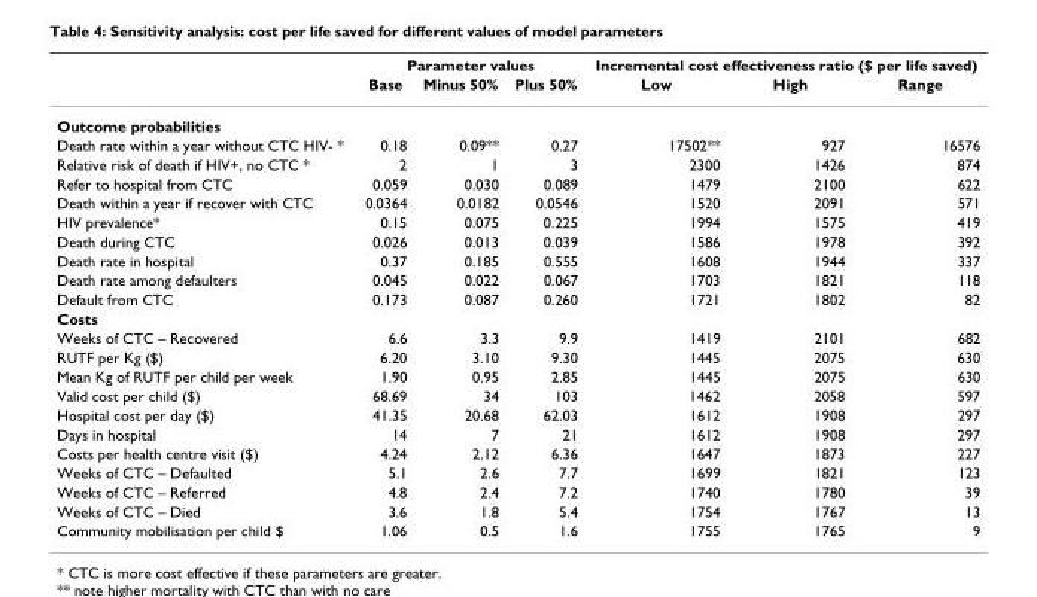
<table><thead><tr><td rowspan="2"></td><td colspan="3">Parameter values</td><td colspan="3">Incremental cost effectiveness ratio ($ per life saved)</td></tr><tr><td>Base</td><td>Minus 50%</td><td>Plus 50%</td><td>Low</td><td>High</td><td>Range</td></tr></thead><tbody><tr><td colspan="7">Outcome probabilities</td></tr><tr><td>Death rate within a year without CTC HIV- *</td><td>0.18</td><td>0.09**</td><td>0.27</td><td>17502**</td><td>927</td><td>16576</td></tr><tr><td>Relative risk of death if HIV+, no CTC *</td><td>2</td><td>1</td><td>3</td><td>2300</td><td>1426</td><td>874</td></tr><tr><td>Refer to hospital from CTC</td><td>0.059</td><td>0.030</td><td>0.089</td><td>1479</td><td>2100</td><td>622</td></tr><tr><td>Death within a year if recover with CTC</td><td>0.0364</td><td>0.0182</td><td>0.0546</td><td>1520</td><td>2091</td><td>571</td></tr><tr><td>HIV prevalence*</td><td>0.15</td><td>0.075</td><td>0.225</td><td>1994</td><td>1575</td><td>419</td></tr><tr><td>Death during CTC</td><td>0.026</td><td>0.013</td><td>0.039</td><td>1586</td><td>1978</td><td>392</td></tr><tr><td>Death rate in hospital</td><td>0.37</td><td>0.185</td><td>0.555</td><td>1608</td><td>1944</td><td>337</td></tr><tr><td>Death rate among defaulters</td><td>0.045</td><td>0.022</td><td>0.067</td><td>1703</td><td>1821</td><td>118</td></tr><tr><td>Default from CTC</td><td>0.173</td><td>0.087</td><td>0.260</td><td>1721</td><td>1802</td><td>82</td></tr><tr><td colspan="7">Costs</td></tr><tr><td>Weeks of CTC – Recovered</td><td>6.6</td><td>3.3</td><td>9.9</td><td>1419</td><td>2101</td><td>682</td></tr><tr><td>RUTF per Kg ($)</td><td>6.20</td><td>3.10</td><td>9.30</td><td>1445</td><td>2075</td><td>630</td></tr><tr><td>Mean Kg of RUTF per child per week</td><td>1.90</td><td>0.95</td><td>2.85</td><td>1445</td><td>2075</td><td>630</td></tr><tr><td>Valid cost per child ($)</td><td>68.69</td><td>34</td><td>103</td><td>1462</td><td>2058</td><td>597</td></tr><tr><td>Hospital cost per day ($)</td><td>41.35</td><td>20.68</td><td>62.03</td><td>1612</td><td>1908</td><td>297</td></tr><tr><td>Days in hospital</td><td>14</td><td>7</td><td>21</td><td>1612</td><td>1908</td><td>297</td></tr><tr><td>Costs per health centre visit ($)</td><td>4.24</td><td>2.12</td><td>6.36</td><td>1647</td><td>1873</td><td>227</td></tr><tr><td>Weeks of CTC – Defaulted</td><td>5.1</td><td>2.6</td><td>7.7</td><td>1699</td><td>1821</td><td>123</td></tr><tr><td>Weeks of CTC – Referred</td><td>4.8</td><td>2.4</td><td>7.2</td><td>1740</td><td>1780</td><td>39</td></tr><tr><td>Weeks of CTC – Died</td><td>3.6</td><td>1.8</td><td>5.4</td><td>1754</td><td>1767</td><td>13</td></tr><tr><td>Community mobilisation per child $</td><td>1.06</td><td>0.5</td><td>1.6</td><td>1755</td><td>1765</td><td>9</td></tr></tbody></table>